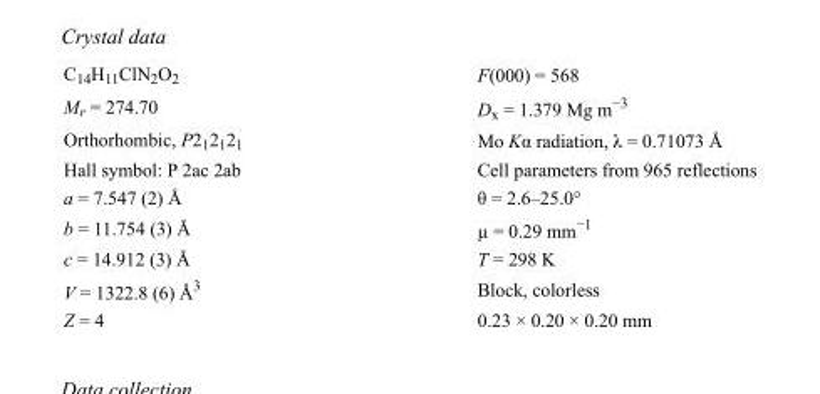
<table><tbody><tr><td>C<sub>14</sub>H<sub>11</sub>ClN<sub>2</sub>O<sub>2</sub></td><td>F(000) = 568</td></tr><tr><td>M<sub>r</sub> = 274.70</td><td>D<sub>x</sub> = 1.379 Mg m<sup>−3</sup></td></tr><tr><td>Orthorhombic, P2<sub>1</sub>2<sub>1</sub>2<sub>1</sub></td><td>Mo Kα radiation, λ = 0.71073 Å</td></tr><tr><td>Hall symbol: P 2ac 2ab</td><td>Cell parameters from 965 reflections</td></tr><tr><td>a = 7.547 (2) Å</td><td>θ = 2.6–25.0°</td></tr><tr><td>b = 11.754 (3) Å</td><td>µ = 0.29 mm<sup>−1</sup></td></tr><tr><td>c = 14.912 (3) Å</td><td>T = 298 K</td></tr><tr><td>V = 1322.8 (6) Å<sup>3</sup></td><td>Block, colorless</td></tr><tr><td>Z = 4</td><td>0.23 × 0.20 × 0.20 mm</td></tr></tbody></table>